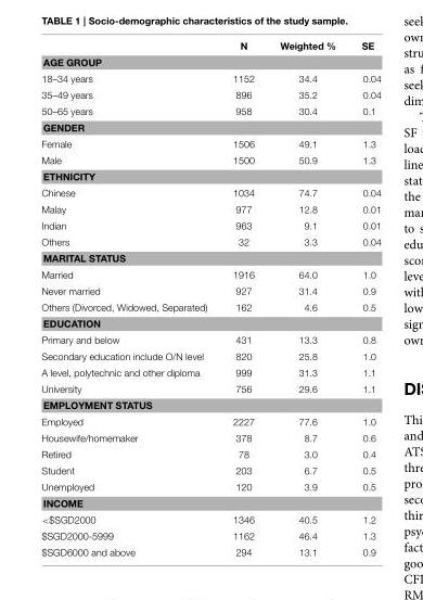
<table><thead><tr><td></td><td>N</td><td>Weighted %</td><td>SE</td></tr></thead><tbody><tr><td colspan="4">AGE GROUP</td></tr><tr><td>18–34 years</td><td>1152</td><td>34.4</td><td>0.04</td></tr><tr><td>35–49 years</td><td>896</td><td>35.2</td><td>0.04</td></tr><tr><td>50–65 years</td><td>958</td><td>30.4</td><td>0.1</td></tr><tr><td colspan="4">GENDER</td></tr><tr><td>Female</td><td>1506</td><td>49.1</td><td>1.3</td></tr><tr><td>Male</td><td>1500</td><td>50.9</td><td>1.3</td></tr><tr><td colspan="4">ETHNICITY</td></tr><tr><td>Chinese</td><td>1034</td><td>74.7</td><td>0.04</td></tr><tr><td>Malay</td><td>977</td><td>12.8</td><td>0.01</td></tr><tr><td>Indian</td><td>963</td><td>9.1</td><td>0.01</td></tr><tr><td>Others</td><td>32</td><td>3.3</td><td>0.04</td></tr><tr><td colspan="4">MARITAL STATUS</td></tr><tr><td>Married</td><td>1916</td><td>64.0</td><td>1.0</td></tr><tr><td>Never married</td><td>927</td><td>31.4</td><td>0.9</td></tr><tr><td>Others (Divorced, Widowed, Separated)</td><td>162</td><td>4.6</td><td>0.5</td></tr><tr><td colspan="4">EDUCATION</td></tr><tr><td>Primary and below</td><td>431</td><td>13.3</td><td>0.8</td></tr><tr><td>Secondary education include O/N level</td><td>820</td><td>25.8</td><td>1.0</td></tr><tr><td>A level, polytechnic and other diploma</td><td>999</td><td>31.3</td><td>1.1</td></tr><tr><td>University</td><td>756</td><td>29.6</td><td>1.1</td></tr><tr><td colspan="4">EMPLOYMENT STATUS</td></tr><tr><td>Employed</td><td>2227</td><td>77.6</td><td>1.0</td></tr><tr><td>Housewife/homemaker</td><td>378</td><td>8.7</td><td>0.6</td></tr><tr><td>Retired</td><td>78</td><td>3.0</td><td>0.4</td></tr><tr><td>Student</td><td>203</td><td>6.7</td><td>0.5</td></tr><tr><td>Unemployed</td><td>120</td><td>3.9</td><td>0.5</td></tr><tr><td colspan="4">INCOME</td></tr><tr><td>&lt;$SGD2000</td><td>1346</td><td>40.5</td><td>1.2</td></tr><tr><td>$SGD2000-5999</td><td>1162</td><td>46.4</td><td>1.3</td></tr><tr><td>$SGD6000 and above</td><td>294</td><td>13.1</td><td>0.9</td></tr></tbody></table>